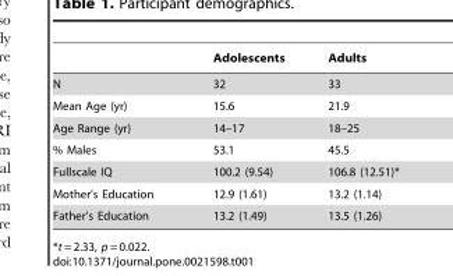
<table><thead><tr><td></td><td>Adolescents</td><td>Adults</td></tr></thead><tbody><tr><td>N</td><td>32</td><td>33</td></tr><tr><td>Mean Age (yr)</td><td>15.6</td><td>21.9</td></tr><tr><td>Age Range (yr)</td><td>14–17</td><td>18–25</td></tr><tr><td>% Males</td><td>53.1</td><td>45.5</td></tr><tr><td>Fullscale IQ</td><td>100.2 (9.54)</td><td>106.8 (12.51)*</td></tr><tr><td>Mother’s Education</td><td>12.9 (1.61)</td><td>13.2 (1.14)</td></tr><tr><td>Father’s Education</td><td>13.2 (1.49)</td><td>13.5 (1.26)</td></tr></tbody></table>